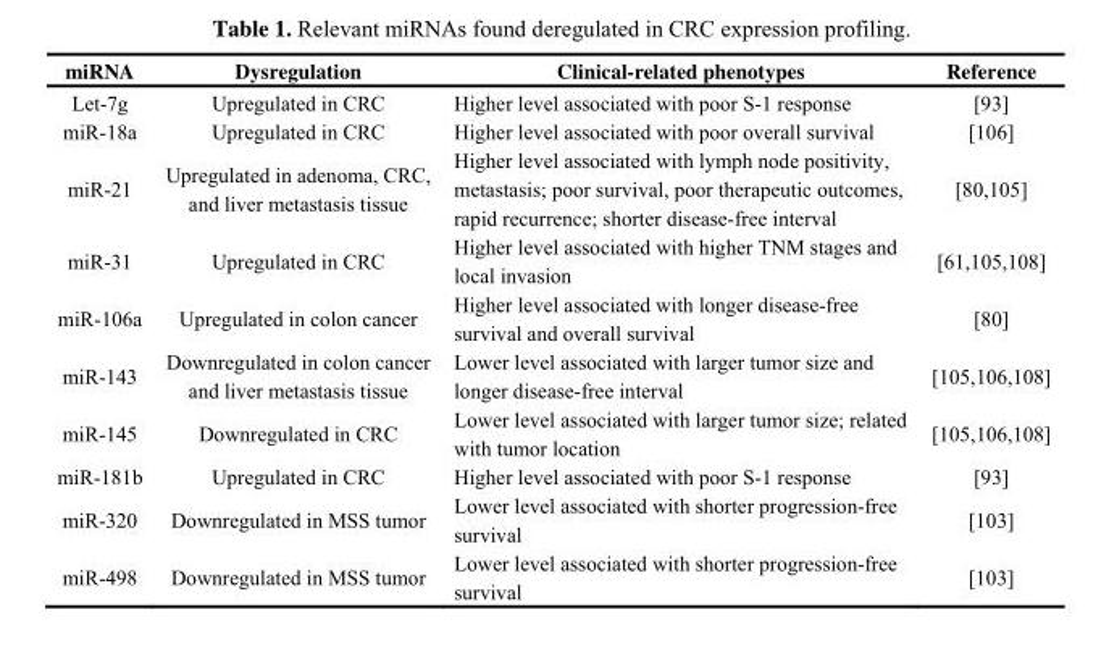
<table><thead><tr><td>miRNA</td><td>Dysregulation</td><td>Clinical-related phenotypes</td><td>Reference</td></tr></thead><tbody><tr><td>Let-7g</td><td>Upregulated in CRC</td><td>Higher level associated with poor S-1 response</td><td>[93]</td></tr><tr><td>miR-18a</td><td>Upregulated in CRC</td><td>Higher level associated with poor overall survival</td><td>[106]</td></tr><tr><td>miR-21</td><td>Upregulated in adenoma, CRC, and liver metastasis tissue</td><td>Higher level associated with lymph node positivity, metastasis; poor survival, poor therapeutic outcomes, rapid recurrence; shorter disease-free interval</td><td>[80,105]</td></tr><tr><td>miR-31</td><td>Upregulated in CRC</td><td>Higher level associated with higher TNM stages and local invasion</td><td>[61,105,108]</td></tr><tr><td>miR-106a</td><td>Upregulated in colon cancer</td><td>Higher level associated with longer disease-free survival and overall survival</td><td>[80]</td></tr><tr><td>miR-143</td><td>Downregulated in colon cancer and liver metastasis tissue</td><td>Lower level associated with larger tumor size and longer disease-free interval</td><td>[105,106,108]</td></tr><tr><td>miR-145</td><td>Downregulated in CRC</td><td>Lower level associated with larger tumor size; related with tumor location</td><td>[105,106,108]</td></tr><tr><td>miR-181b</td><td>Upregulated in CRC</td><td>Higher level associated with poor S-1 response</td><td>[93]</td></tr><tr><td>miR-320</td><td>Downregulated in MSS tumor</td><td>Lower level associated with shorter progression-free survival</td><td>[103]</td></tr><tr><td>miR-498</td><td>Downregulated in MSS tumor</td><td>Lower level associated with shorter progression-free survival</td><td>[103]</td></tr></tbody></table>